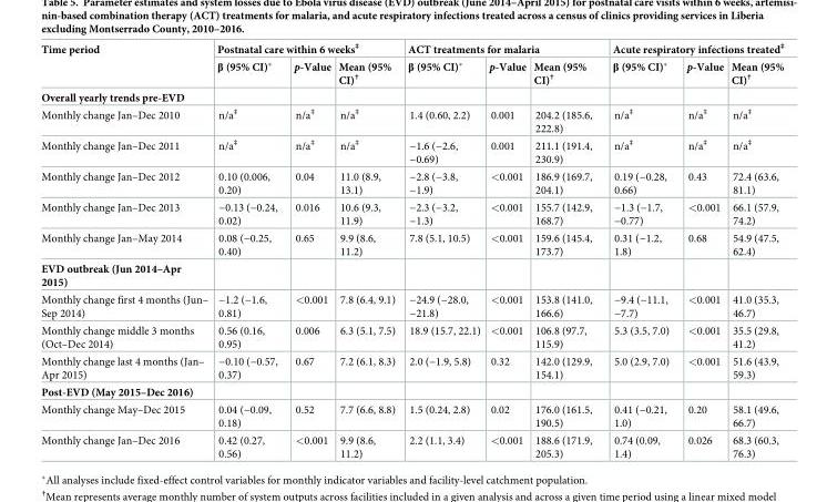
<table><thead><tr><td rowspan="2">Time period</td><td colspan="3">Postnatal care within 6 weeks<sup>‡</sup></td><td colspan="3">ACT treatments for malaria</td><td colspan="3">Acute respiratory infections treated<sup>‡</sup></td></tr><tr><td>β (95% CI)*</td><td>p-Value</td><td>Mean (95% CI)<sup>†</sup></td><td>β (95% CI)*</td><td>p-Value</td><td>Mean (95% CI)<sup>†</sup></td><td>β (95% CI)*</td><td>p-Value</td><td>Mean (95% CI)<sup>†</sup></td></tr></thead><tbody><tr><td colspan="10">Overall yearly trends pre-EVD</td></tr><tr><td>Monthly change Jan–Dec 2010</td><td>n/a<sup>‡</sup></td><td>n/a<sup>‡</sup></td><td>n/a<sup>‡</sup></td><td>1.4 (0.60, 2.2)</td><td>0.001</td><td>204.2 (185.6, 222.8)</td><td>n/a<sup>‡</sup></td><td>n/a<sup>‡</sup></td><td>n/a<sup>‡</sup></td></tr><tr><td>Monthly change Jan–Dec 2011</td><td>n/a<sup>‡</sup></td><td>n/a<sup>‡</sup></td><td>n/a<sup>‡</sup></td><td>−1.6 (−2.6, −0.69)</td><td>0.001</td><td>211.1 (191.4, 230.9)</td><td>n/a<sup>‡</sup></td><td>n/a<sup>‡</sup></td><td>n/a<sup>‡</sup></td></tr><tr><td>Monthly change Jan–Dec 2012</td><td>0.10 (0.006, 0.20)</td><td>0.04</td><td>11.0 (8.9, 13.1)</td><td>−2.8 (−3.8, −1.9)</td><td>&lt;0.001</td><td>186.9 (169.7, 204.1)</td><td>0.19 (−0.28, 0.66)</td><td>0.43</td><td>72.4 (63.6, 81.1)</td></tr><tr><td>Monthly change Jan–Dec 2013</td><td>−0.13 (−0.24, 0.02)</td><td>0.016</td><td>10.6 (9.3, 11.9)</td><td>−2.3 (−3.2, −1.3)</td><td>&lt;0.001</td><td>155.7 (142.9, 168.7)</td><td>−1.3 (−1.7, −0.77)</td><td>&lt;0.001</td><td>66.1 (57.9, 74.2)</td></tr><tr><td>Monthly change Jan–May 2014</td><td>0.08 (−0.25, 0.40)</td><td>0.65</td><td>9.9 (8.6, 11.2)</td><td>7.8 (5.1, 10.5)</td><td>&lt;0.001</td><td>159.6 (145.4, 173.7)</td><td>0.31 (−1.2, 1.8)</td><td>0.68</td><td>54.9 (47.5, 62.4)</td></tr><tr><td colspan="10">EVD outbreak (Jun 2014–Apr 2015)</td></tr><tr><td>Monthly change first 4 months (Jun– Sep 2014)</td><td>−1.2 (−1.6, 0.81)</td><td>&lt;0.001</td><td>7.8 (6.4, 9.1)</td><td>−24.9 (−28.0, −21.8)</td><td>&lt;0.001</td><td>153.8 (141.0, 166.6)</td><td>−9.4 (−11.1, −7.7)</td><td>&lt;0.001</td><td>41.0 (35.3, 46.7)</td></tr><tr><td>Monthly change middle 3 months (Oct–Dec 2014)</td><td>0.56 (0.16, 0.95)</td><td>0.006</td><td>6.3 (5.1, 7.5)</td><td>18.9 (15.7, 22.1)</td><td>&lt;0.001</td><td>106.8 (97.7, 115.9)</td><td>5.3 (3.5, 7.0)</td><td>&lt;0.001</td><td>35.5 (29.8, 41.2)</td></tr><tr><td>Monthly change last 4 months (Jan– Apr 2015)</td><td>−0.10 (−0.57, 0.37)</td><td>0.67</td><td>7.2 (6.1, 8.3)</td><td>2.0 (−1.9, 5.8)</td><td>0.32</td><td>142.0 (129.9, 154.1)</td><td>5.0 (2.9, 7.0)</td><td>&lt;0.001</td><td>51.6 (43.9, 59.3)</td></tr><tr><td colspan="10">Post-EVD (May 2015–Dec 2016)</td></tr><tr><td>Monthly change May–Dec 2015</td><td>0.04 (−0.09, 0.18)</td><td>0.52</td><td>7.7 (6.6, 8.8)</td><td>1.5 (0.24, 2.8)</td><td>0.02</td><td>176.0 (161.5, 190.5)</td><td>0.41 (−0.21, 1.0)</td><td>0.20</td><td>58.1 (49.6, 66.7)</td></tr><tr><td>Monthly change Jan–Dec 2016</td><td>0.42 (0.27, 0.56)</td><td>&lt;0.001</td><td>9.9 (8.6, 11.2)</td><td>2.2 (1.1, 3.4)</td><td>&lt;0.001</td><td>188.6 (171.9, 205.3)</td><td>0.74 (0.09, 1.4)</td><td>0.026</td><td>68.3 (60.3, 76.3)</td></tr></tbody></table>